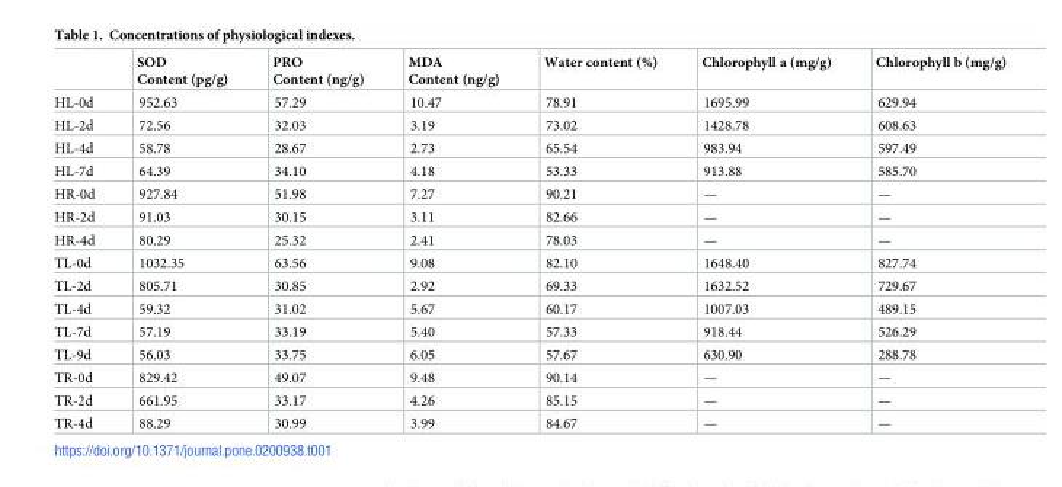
<table><thead><tr><td></td><td>SOD Content (pg/g)</td><td>PRO Content (ng/g)</td><td>MDA Content (ng/g)</td><td>Water content (%)</td><td>Chlorophyll a (mg/g)</td><td>Chlorophyll b (mg/g)</td></tr></thead><tbody><tr><td>HL-0d</td><td>952.63</td><td>57.29</td><td>10.47</td><td>78.91</td><td>1695.99</td><td>629.94</td></tr><tr><td>HL-2d</td><td>72.56</td><td>32.03</td><td>3.19</td><td>73.02</td><td>1428.78</td><td>608.63</td></tr><tr><td>HL-4d</td><td>58.78</td><td>28.67</td><td>2.73</td><td>65.54</td><td>983.94</td><td>597.49</td></tr><tr><td>HL-7d</td><td>64.39</td><td>34.10</td><td>4.18</td><td>53.33</td><td>913.88</td><td>585.70</td></tr><tr><td>HR-0d</td><td>927.84</td><td>51.98</td><td>7.27</td><td>90.21</td><td>—</td><td>—</td></tr><tr><td>HR-2d</td><td>91.03</td><td>30.15</td><td>3.11</td><td>82.66</td><td>—</td><td>—</td></tr><tr><td>HR-4d</td><td>80.29</td><td>25.32</td><td>2.41</td><td>78.03</td><td>—</td><td>—</td></tr><tr><td>TL-0d</td><td>1032.35</td><td>63.56</td><td>9.08</td><td>82.10</td><td>1648.40</td><td>827.74</td></tr><tr><td>TL-2d</td><td>805.71</td><td>30.85</td><td>2.92</td><td>69.33</td><td>1632.52</td><td>729.67</td></tr><tr><td>TL-4d</td><td>59.32</td><td>31.02</td><td>5.67</td><td>60.17</td><td>1007.03</td><td>489.15</td></tr><tr><td>TL-7d</td><td>57.19</td><td>33.19</td><td>5.40</td><td>57.33</td><td>918.44</td><td>526.29</td></tr><tr><td>TL-9d</td><td>56.03</td><td>33.75</td><td>6.05</td><td>57.67</td><td>630.90</td><td>288.78</td></tr><tr><td>TR-0d</td><td>829.42</td><td>49.07</td><td>9.48</td><td>90.14</td><td>—</td><td>—</td></tr><tr><td>TR-2d</td><td>661.95</td><td>33.17</td><td>4.26</td><td>85.15</td><td>—</td><td>—</td></tr><tr><td>TR-4d</td><td>88.29</td><td>30.99</td><td>3.99</td><td>84.67</td><td>—</td><td>—</td></tr></tbody></table>